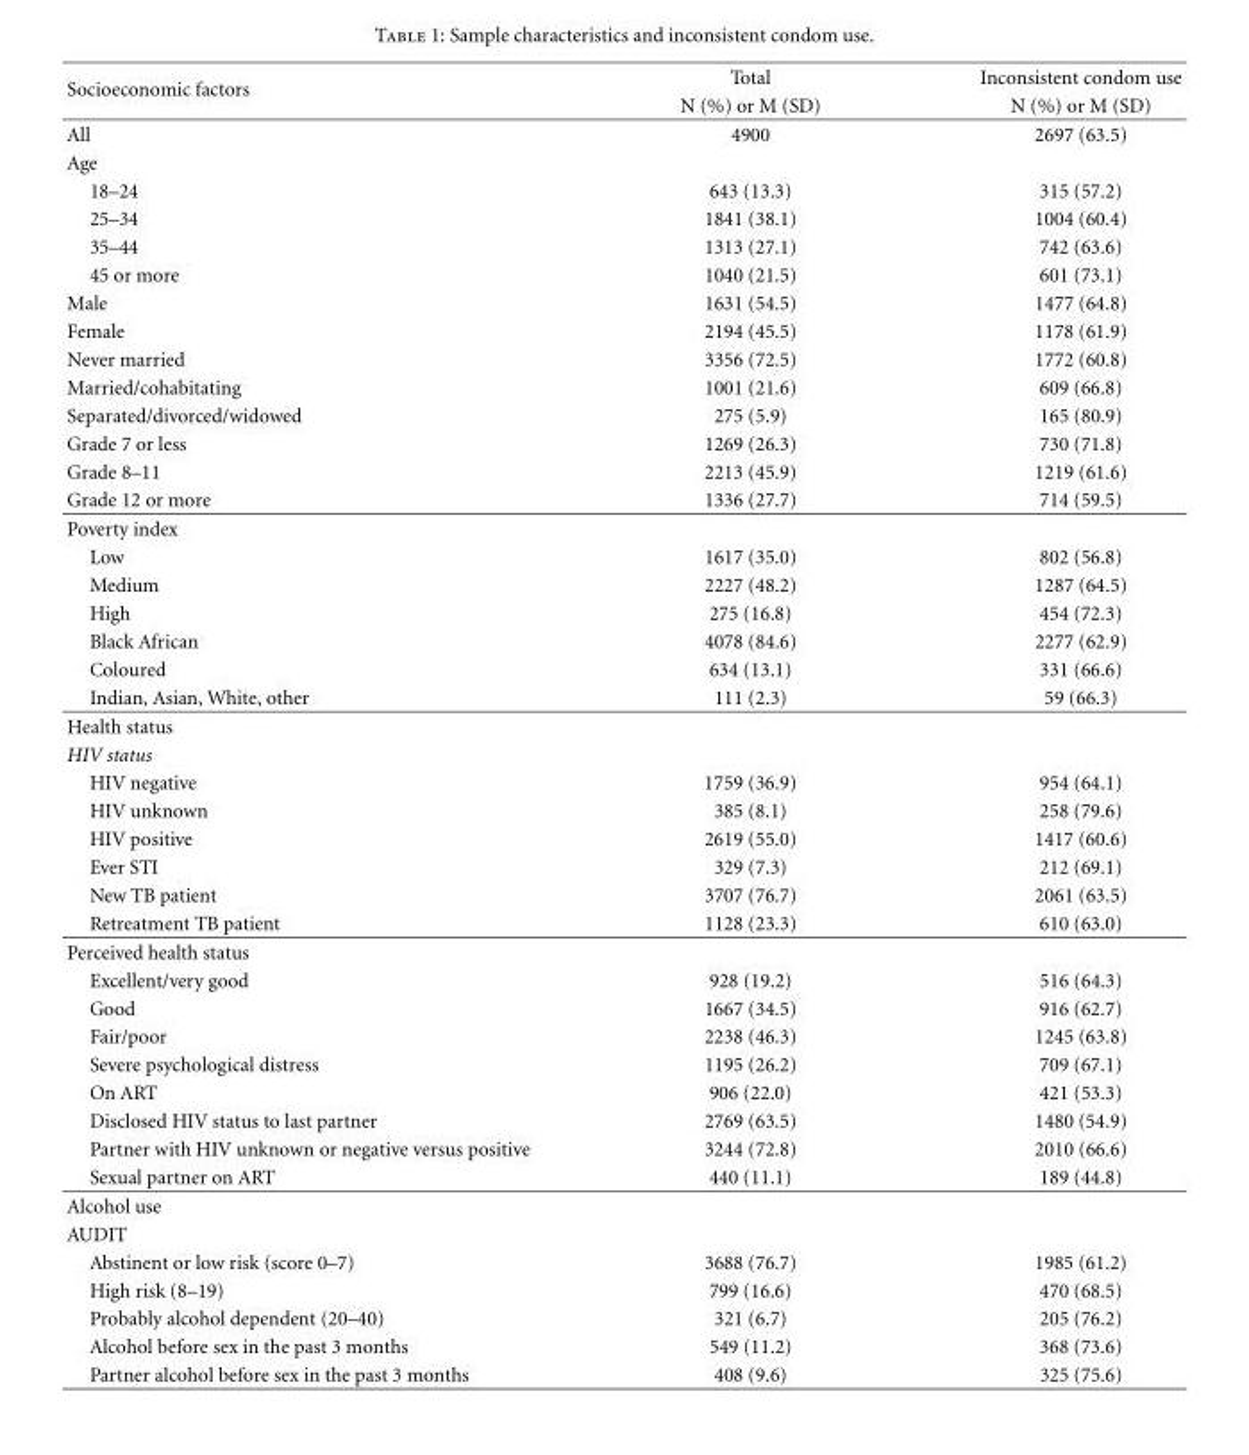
<table><thead><tr><td rowspan="2">Socioeconomic factors</td><td rowspan="2">Total N (%) or M (SD)</td><td rowspan="2">Inconsistent condom use N (%) or M (SD)</td></tr><tr></tr></thead><tbody><tr><td>All</td><td>4900</td><td>2697 (63.5)</td></tr><tr><td colspan="3">Age</td></tr><tr><td>18–24</td><td>643 (13.3)</td><td>315 (57.2)</td></tr><tr><td>25–34</td><td>1841 (38.1)</td><td>1004 (60.4)</td></tr><tr><td>35–44</td><td>1313 (27.1)</td><td>742 (63.6)</td></tr><tr><td>45 or more</td><td>1040 (21.5)</td><td>601 (73.1)</td></tr><tr><td>Male</td><td>1631 (54.5)</td><td>1477 (64.8)</td></tr><tr><td>Female</td><td>2194 (45.5)</td><td>1178 (61.9)</td></tr><tr><td>Never married</td><td>3356 (72.5)</td><td>1772 (60.8)</td></tr><tr><td>Married/cohabitating</td><td>1001 (21.6)</td><td>609 (66.8)</td></tr><tr><td>Separated/divorced/widowed</td><td>275 (5.9)</td><td>165 (80.9)</td></tr><tr><td>Grade 7 or less</td><td>1269 (26.3)</td><td>730 (71.8)</td></tr><tr><td>Grade 8–11</td><td>2213 (45.9)</td><td>1219 (61.6)</td></tr><tr><td>Grade 12 or more</td><td>1336 (27.7)</td><td>714 (59.5)</td></tr><tr><td colspan="3">Poverty index</td></tr><tr><td>Low</td><td>1617 (35.0)</td><td>802 (56.8)</td></tr><tr><td>Medium</td><td>2227 (48.2)</td><td>1287 (64.5)</td></tr><tr><td>High</td><td>275 (16.8)</td><td>454 (72.3)</td></tr><tr><td>Black African</td><td>4078 (84.6)</td><td>2277 (62.9)</td></tr><tr><td>Coloured</td><td>634 (13.1)</td><td>331 (66.6)</td></tr><tr><td>Indian, Asian, White, other</td><td>111 (2.3)</td><td>59 (66.3)</td></tr><tr><td colspan="3">Health status</td></tr><tr><td colspan="3">HIV status</td></tr><tr><td>HIV negative</td><td>1759 (36.9)</td><td>954 (64.1)</td></tr><tr><td>HIV unknown</td><td>385 (8.1)</td><td>258 (79.6)</td></tr><tr><td>HIV positive</td><td>2619 (55.0)</td><td>1417 (60.6)</td></tr><tr><td>Ever STI</td><td>329 (7.3)</td><td>212 (69.1)</td></tr><tr><td>New TB patient</td><td>3707 (76.7)</td><td>2061 (63.5)</td></tr><tr><td>Retreatment TB patient</td><td>1128 (23.3)</td><td>610 (63.0)</td></tr><tr><td colspan="3">Perceived health status</td></tr><tr><td>Excellent/very good</td><td>928 (19.2)</td><td>516 (64.3)</td></tr><tr><td>Good</td><td>1667 (34.5)</td><td>916 (62.7)</td></tr><tr><td>Fair/poor</td><td>2238 (46.3)</td><td>1245 (63.8)</td></tr><tr><td>Severe psychological distress</td><td>1195 (26.2)</td><td>709 (67.1)</td></tr><tr><td>On ART</td><td>906 (22.0)</td><td>421 (53.3)</td></tr><tr><td>Disclosed HIV status to last partner</td><td>2769 (63.5)</td><td>1480 (54.9)</td></tr><tr><td>Partner with HIV unknown or negative versus positive</td><td>3244 (72.8)</td><td>2010 (66.6)</td></tr><tr><td>Sexual partner on ART</td><td>440 (11.1)</td><td>189 (44.8)</td></tr><tr><td colspan="3">Alcohol use</td></tr><tr><td colspan="3">AUDIT</td></tr><tr><td>Abstinent or low risk (score 0–7)</td><td>3688 (76.7)</td><td>1985 (61.2)</td></tr><tr><td>High risk (8–19)</td><td>799 (16.6)</td><td>470 (68.5)</td></tr><tr><td>Probably alcohol dependent (20–40)</td><td>321 (6.7)</td><td>205 (76.2)</td></tr><tr><td>Alcohol before sex in the past 3 months</td><td>549 (11.2)</td><td>368 (73.6)</td></tr><tr><td>Partner alcohol before sex in the past 3 months</td><td>408 (9.6)</td><td>325 (75.6)</td></tr></tbody></table>